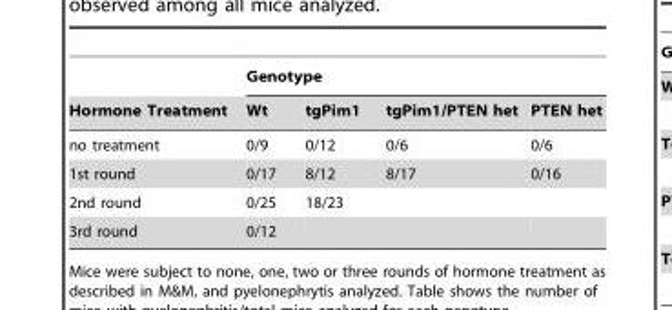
<table><thead><tr><td rowspan="2">Hormone Treatment</td><td colspan="4">Genotype</td></tr><tr><td>Wt</td><td>tgPim1</td><td>tgPim1/PTEN het</td><td>PTEN het</td></tr></thead><tbody><tr><td>no treatment</td><td>0/9</td><td>0/12</td><td>0/6</td><td>0/6</td></tr><tr><td>1st round</td><td>0/17</td><td>8/12</td><td>8/17</td><td>0/16</td></tr><tr><td>2nd round</td><td>0/25</td><td>18/23</td><td></td><td></td></tr><tr><td>3rd round</td><td>0/12</td><td></td><td></td><td></td></tr></tbody></table>